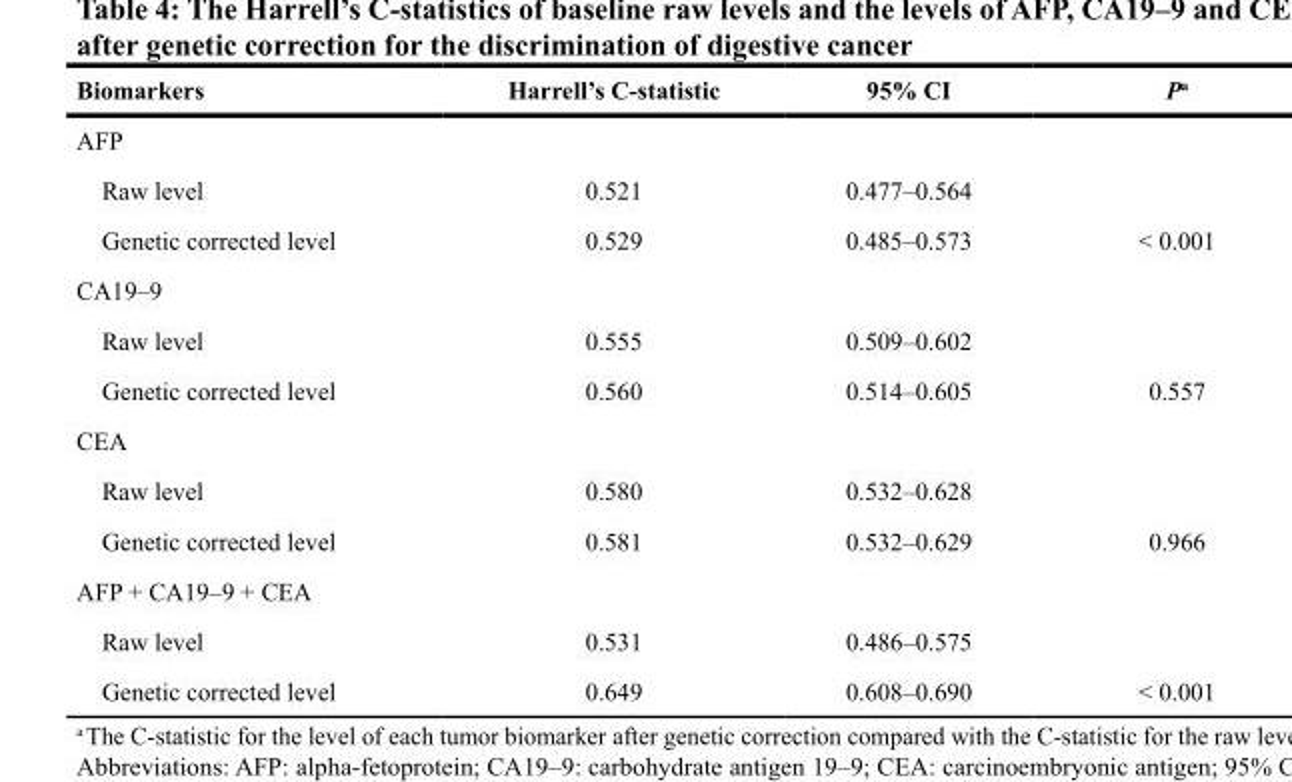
<table><thead><tr><td>Biomarkers</td><td>Harrell’s C-statistic</td><td>95% CI</td><td>P<sup>a</sup></td></tr></thead><tbody><tr><td colspan="4">AFP</td></tr><tr><td>Raw level</td><td>0.521</td><td>0.477–0.564</td><td></td></tr><tr><td>Genetic corrected level</td><td>0.529</td><td>0.485–0.573</td><td>&lt; 0.001</td></tr><tr><td colspan="4">CA19–9</td></tr><tr><td>Raw level</td><td>0.555</td><td>0.509–0.602</td><td></td></tr><tr><td>Genetic corrected level</td><td>0.560</td><td>0.514–0.605</td><td>0.557</td></tr><tr><td colspan="4">CEA</td></tr><tr><td>Raw level</td><td>0.580</td><td>0.532–0.628</td><td></td></tr><tr><td>Genetic corrected level</td><td>0.581</td><td>0.532–0.629</td><td>0.966</td></tr><tr><td colspan="4">AFP + CA19–9 + CEA</td></tr><tr><td>Raw level</td><td>0.531</td><td>0.486–0.575</td><td></td></tr><tr><td>Genetic corrected level</td><td>0.649</td><td>0.608–0.690</td><td>&lt; 0.001</td></tr></tbody></table>